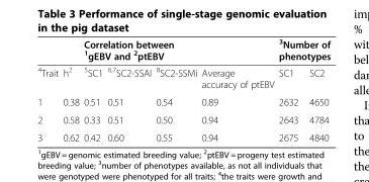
<table><thead><tr><td rowspan="2"><sup>4</sup>Trait</td><td rowspan="2">h<sup>2</sup></td><td colspan="3">Correlation between <sup>1</sup>gEBV and <sup>2</sup>ptEBV</td><td rowspan="2">Average accuracy of ptEBV</td><td colspan="2"><sup>3</sup>Number of phenotypes</td></tr><tr><td><sup>5</sup>SC1</td><td><sup>6,7</sup>SC2-SSAI</td><td><sup>8</sup>SC2-SSMi</td><td>SC1</td><td>SC2</td></tr></thead><tbody><tr><td>1</td><td>0.38</td><td>0.51</td><td>0.51</td><td>0.54</td><td>0.89</td><td>2632</td><td>4650</td></tr><tr><td>2</td><td>0.58</td><td>0.33</td><td>0.51</td><td>0.50</td><td>0.94</td><td>2643</td><td>4784</td></tr><tr><td>3</td><td>0.62</td><td>0.42</td><td>0.60</td><td>0.55</td><td>0.94</td><td>2675</td><td>4840</td></tr></tbody></table>